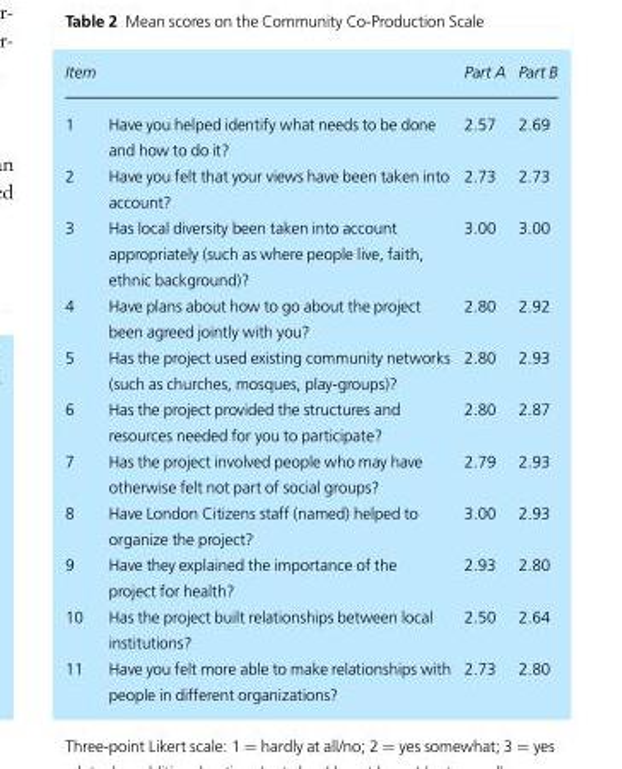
<table><thead><tr><td>Item</td><td></td><td>Part A</td><td>Part B</td></tr></thead><tbody><tr><td>1</td><td>Have you helped identify what needs to be done and how to do it?</td><td>2.57</td><td>2.69</td></tr><tr><td>2</td><td>Have you felt that your views have been taken into account?</td><td>2.73</td><td>2.73</td></tr><tr><td>3</td><td>Has local diversity been taken into account appropriately (such as where people live, faith, ethnic background)?</td><td>3.00</td><td>3.00</td></tr><tr><td>4</td><td>Have plans about how to go about the project been agreed jointly with you?</td><td>2.80</td><td>2.92</td></tr><tr><td>5</td><td>Has the project used existing community networks (such as churches, mosques, play-groups)?</td><td>2.80</td><td>2.93</td></tr><tr><td>6</td><td>Has the project provided the structures and resources needed for you to participate?</td><td>2.80</td><td>2.87</td></tr><tr><td>7</td><td>Has the project involved people who may have otherwise felt not part of social groups?</td><td>2.79</td><td>2.93</td></tr><tr><td>8</td><td>Have London Citizens staff (named) helped to organize the project?</td><td>3.00</td><td>2.93</td></tr><tr><td>9</td><td>Have they explained the importance of the project for health?</td><td>2.93</td><td>2.80</td></tr><tr><td>10</td><td>Has the project built relationships between local institutions?</td><td>2.50</td><td>2.64</td></tr><tr><td>11</td><td>Have you felt more able to make relationships with people in different organizations?</td><td>2.73</td><td>2.80</td></tr></tbody></table>